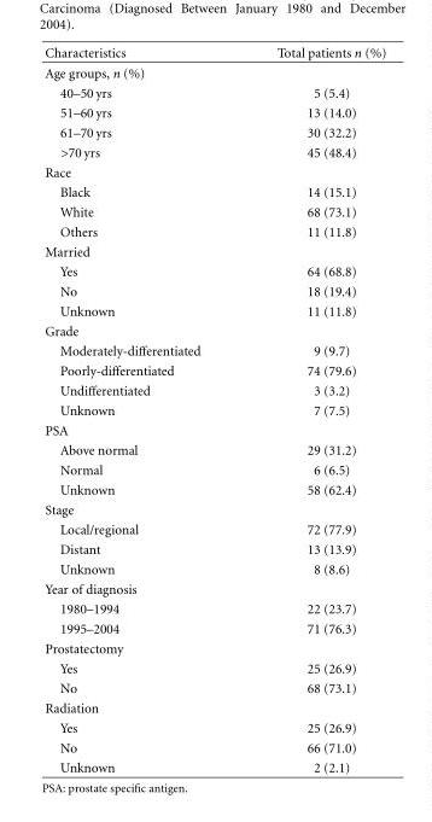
<table><thead><tr><td>Characteristics</td><td>Total patients n (%)</td></tr></thead><tbody><tr><td colspan="2">Age groups, n (%)</td></tr><tr><td>40–50 yrs</td><td>5 (5.4)</td></tr><tr><td>51–60 yrs</td><td>13 (14.0)</td></tr><tr><td>61–70 yrs</td><td>30 (32.2)</td></tr><tr><td>&gt;70 yrs</td><td>45 (48.4)</td></tr><tr><td colspan="2">Race</td></tr><tr><td>Black</td><td>14 (15.1)</td></tr><tr><td>White</td><td>68 (73.1)</td></tr><tr><td>Others</td><td>11 (11.8)</td></tr><tr><td colspan="2">Married</td></tr><tr><td>Yes</td><td>64 (68.8)</td></tr><tr><td>No</td><td>18 (19.4)</td></tr><tr><td>Unknown</td><td>11 (11.8)</td></tr><tr><td colspan="2">Grade</td></tr><tr><td>Moderately-differentiated</td><td>9 (9.7)</td></tr><tr><td>Poorly-differentiated</td><td>74 (79.6)</td></tr><tr><td>Undifferentiated</td><td>3 (3.2)</td></tr><tr><td>Unknown</td><td>7 (7.5)</td></tr><tr><td colspan="2">PSA</td></tr><tr><td>Above normal</td><td>29 (31.2)</td></tr><tr><td>Normal</td><td>6 (6.5)</td></tr><tr><td>Unknown</td><td>58 (62.4)</td></tr><tr><td colspan="2">Stage</td></tr><tr><td>Local/regional</td><td>72 (77.9)</td></tr><tr><td>Distant</td><td>13 (13.9)</td></tr><tr><td>Unknown</td><td>8 (8.6)</td></tr><tr><td colspan="2">Year of diagnosis</td></tr><tr><td>1980–1994</td><td>22 (23.7)</td></tr><tr><td>1995–2004</td><td>71 (76.3)</td></tr><tr><td colspan="2">Prostatectomy</td></tr><tr><td>Yes</td><td>25 (26.9)</td></tr><tr><td>No</td><td>68 (73.1)</td></tr><tr><td colspan="2">Radiation</td></tr><tr><td>Yes</td><td>25 (26.9)</td></tr><tr><td>No</td><td>66 (71.0)</td></tr><tr><td>Unknown</td><td>2 (2.1)</td></tr></tbody></table>